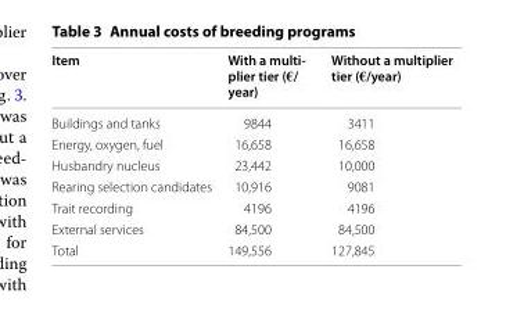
<table><thead><tr><td>Item</td><td>With a multi‑ plier tier (€/ year)</td><td>Without a multiplier tier (€/year)</td></tr></thead><tbody><tr><td>Buildings and tanks</td><td>9844</td><td>3411</td></tr><tr><td>Energy, oxygen, fuel</td><td>16,658</td><td>16,658</td></tr><tr><td>Husbandry nucleus</td><td>23,442</td><td>10,000</td></tr><tr><td>Rearing selection candidates</td><td>10,916</td><td>9081</td></tr><tr><td>Trait recording</td><td>4196</td><td>4196</td></tr><tr><td>External services</td><td>84,500</td><td>84,500</td></tr><tr><td>Total</td><td>149,556</td><td>127,845</td></tr></tbody></table>